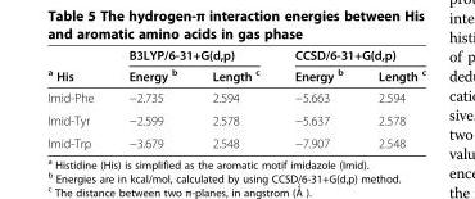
<table><thead><tr><td rowspan="2"><sup>a</sup> His</td><td colspan="2">B3LYP/6-31+G(d,p)</td><td colspan="2">CCSD/6-31+G(d,p)</td></tr><tr><td>Energy <sup>b</sup></td><td>Length <sup>c</sup></td><td>Energy <sup>b</sup></td><td>Length <sup>c</sup></td></tr></thead><tbody><tr><td>Imid-Phe</td><td>−2.735</td><td>2.594</td><td>−5.663</td><td>2.594</td></tr><tr><td>Imid-Tyr</td><td>−2.599</td><td>2.578</td><td>−5.637</td><td>2.578</td></tr><tr><td>Imid-Trp</td><td>−3.679</td><td>2.548</td><td>−7.907</td><td>2.548</td></tr></tbody></table>